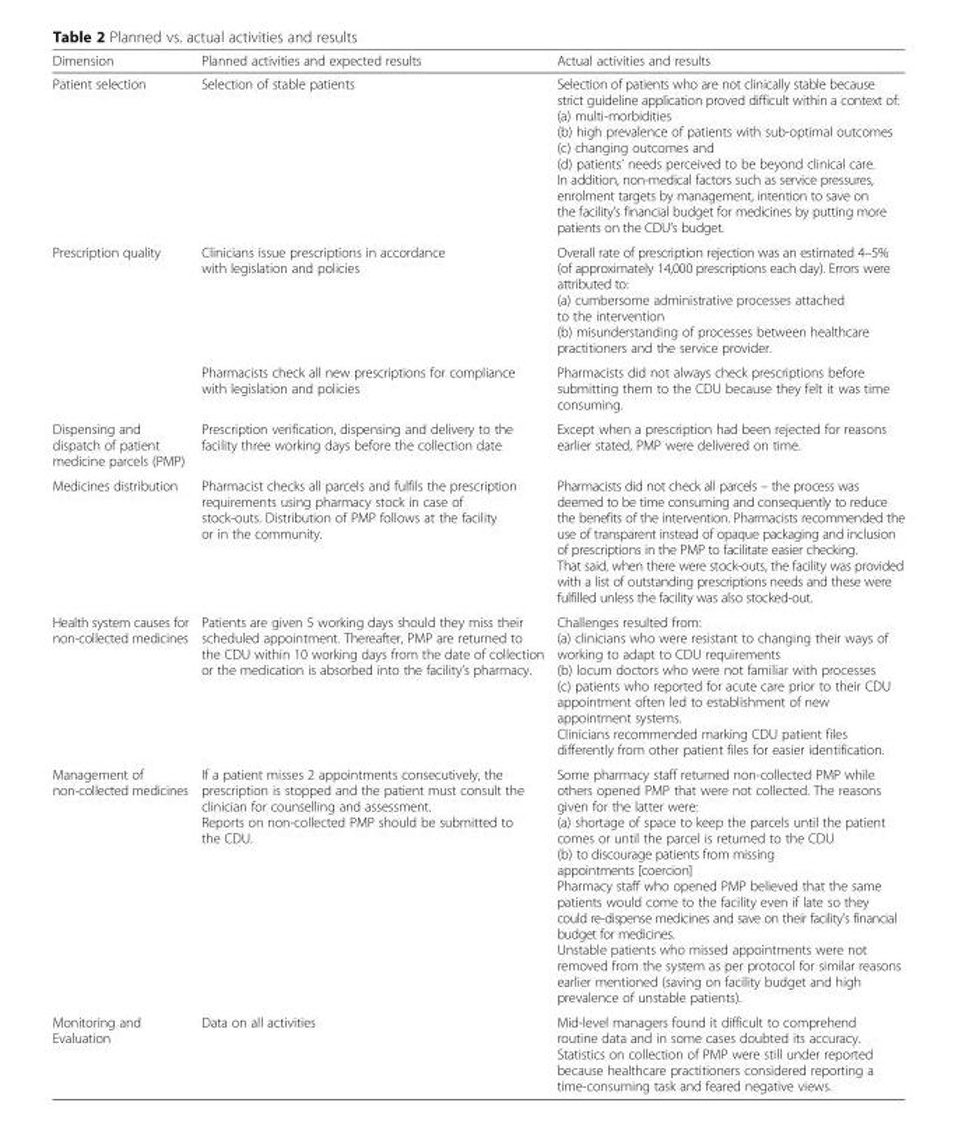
<table><thead><tr><td>Dimension</td><td>Planned activities and expected results</td><td>Actual activities and results</td></tr></thead><tbody><tr><td>Patient selection</td><td>Selection of stable patients</td><td>Selection of patients who are not clinically stable because strict guideline application proved difficult within a context of: (a) multi-morbidities (b) high prevalence of patients with sub-optimal outcomes (c) changing outcomes and (d) patients’ needs perceived to be beyond clinical care. In addition, non-medical factors such as service pressures, enrolment targets by management, intention to save on the facility’s financial budget for medicines by putting more patients on the CDU’s budget.</td></tr><tr><td rowspan="2">Prescription quality</td><td>Clinicians issue prescriptions in accordance with legislation and policies</td><td>Overall rate of prescription rejection was an estimated 4–5% (of approximately 14,000 prescriptions each day). Errors were attributed to: (a) cumbersome administrative processes attached to the intervention (b) misunderstanding of processes between healthcare practitioners and the service provider.</td></tr><tr><td>Pharmacists check all new prescriptions for compliance with legislation and policies</td><td>Pharmacists did not always check prescriptions before submitting them to the CDU because they felt it was time consuming.</td></tr><tr><td>Dispensing and dispatch of patient medicine parcels (PMP)</td><td>Prescription verification, dispensing and delivery to the facility three working days before the collection date</td><td>Except when a prescription had been rejected for reasons earlier stated, PMP were delivered on time.</td></tr><tr><td>Medicines distribution</td><td>Pharmacist checks all parcels and fulfils the prescription requirements using pharmacy stock in case of stock-outs. Distribution of PMP follows at the facility or in the community.</td><td>Pharmacists did not check all parcels – the process was deemed to be time consuming and consequently to reduce the benefits of the intervention. Pharmacists recommended the use of transparent instead of opaque packaging and inclusion of prescriptions in the PMP to facilitate easier checking. That said, when there were stock-outs, the facility was provided with a list of outstanding prescriptions needs and these were fulfilled unless the facility was also stocked-out.</td></tr><tr><td>Health system causes for non-collected medicines</td><td>Patients are given 5 working days should they miss their scheduled appointment. Thereafter, PMP are returned to the CDU within 10 working days from the date of collection or the medication is absorbed into the facility’s pharmacy.</td><td>Challenges resulted from: (a) clinicians who were resistant to changing their ways of working to adapt to CDU requirements (b) locum doctors who were not familiar with processes (c) patients who reported for acute care prior to their CDU appointment often led to establishment of new appointment systems. Clinicians recommended marking CDU patient files differently from other patient files for easier identification.</td></tr><tr><td>Management of non-collected medicines</td><td>If a patient misses 2 appointments consecutively, the prescription is stopped and the patient must consult the clinician for counselling and assessment. Reports on non-collected PMP should be submitted to the CDU.</td><td>Some pharmacy staff returned non-collected PMP while others opened PMP that were not collected. The reasons given for the latter were: (a) shortage of space to keep the parcels until the patient comes or until the parcel is returned to the CDU (b) to discourage patients from missing appointments [coercion] Pharmacy staff who opened PMP believed that the same patients would come to the facility even if late so they could re-dispense medicines and save on their facility&#x27;s financial budget for medicines. Unstable patients who missed appointments were not removed from the system as per protocol for similar reasons earlier mentioned (saving on facility budget and high prevalence of unstable patients).</td></tr><tr><td>Monitoring and Evaluation</td><td>Data on all activities</td><td>Mid-level managers found it difficult to comprehend routine data and in some cases doubted its accuracy. Statistics on collection of PMP were still under reported because healthcare practitioners considered reporting a time-consuming task and feared negative views.</td></tr></tbody></table>